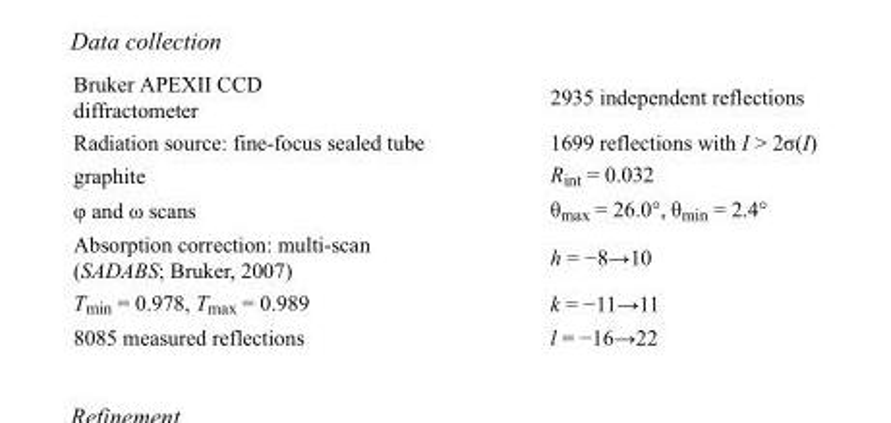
<table><tbody><tr><td>Bruker APEXII CCD diffractometer</td><td>2935 independent reflections</td></tr><tr><td>Radiation source: fine-focus sealed tube</td><td>1699 reflections with I &gt; 2σ(I)</td></tr><tr><td>graphite</td><td>R<sub>int</sub> = 0.032</td></tr><tr><td>φ and ω scans</td><td>θ<sub>max</sub> = 26.0°, θ<sub>min</sub> = 2.4°</td></tr><tr><td>Absorption correction: multi-scan (SADABS; Bruker, 2007)</td><td>h = −8→10</td></tr><tr><td>T<sub>min</sub> = 0.978, T<sub>max</sub> = 0.989</td><td>k = −11→11</td></tr><tr><td>8085 measured reflections</td><td>l = −16→22</td></tr></tbody></table>